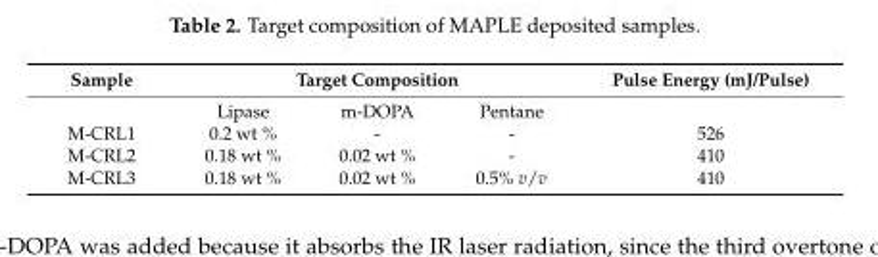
<table><thead><tr><td rowspan="2">Sample</td><td colspan="3">Target Composition</td><td rowspan="2">Pulse Energy (mJ/Pulse)</td></tr><tr><td>Lipase</td><td>m-DOPA</td><td>Pentane</td></tr></thead><tbody><tr><td>M-CRL1</td><td>0.2 wt %</td><td>-</td><td>-</td><td>526</td></tr><tr><td>M-CRL2</td><td>0.18 wt %</td><td>0.02 wt %</td><td>-</td><td>410</td></tr><tr><td>M-CRL3</td><td>0.18 wt %</td><td>0.02 wt %</td><td>0.5% v/v</td><td>410</td></tr></tbody></table>